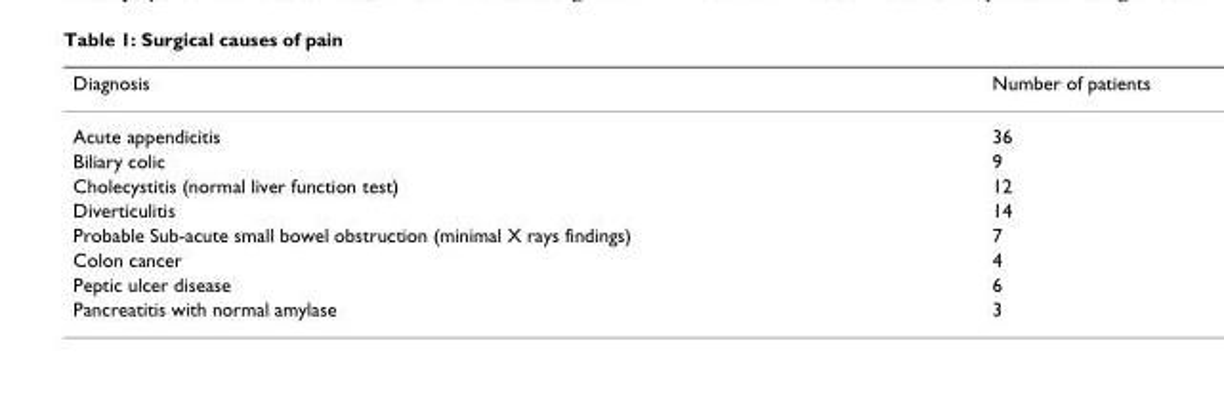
<table><thead><tr><td>Diagnosis</td><td>Number of patients</td></tr></thead><tbody><tr><td>Acute appendicitis</td><td>36</td></tr><tr><td>Biliary colic</td><td>9</td></tr><tr><td>Cholecystitis (normal liver function test)</td><td>12</td></tr><tr><td>Diverticulitis</td><td>14</td></tr><tr><td>Probable Sub-acute small bowel obstruction (minimal X rays findings)</td><td>7</td></tr><tr><td>Colon cancer</td><td>4</td></tr><tr><td>Peptic ulcer disease</td><td>6</td></tr><tr><td>Pancreatitis with normal amylase</td><td>3</td></tr></tbody></table>